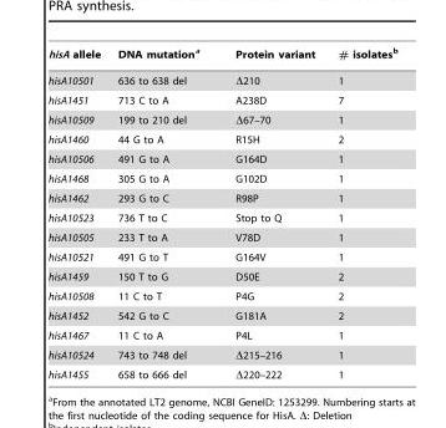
<table><thead><tr><td>hisA allele</td><td>DNA mutation<sup>a</sup></td><td>Protein variant</td><td># isolates<sup>b</sup></td></tr></thead><tbody><tr><td>hisA10501</td><td>636 to 638 del</td><td>Δ210</td><td>1</td></tr><tr><td>hisA1451</td><td>713 C to A</td><td>A238D</td><td>7</td></tr><tr><td>hisA10509</td><td>199 to 210 del</td><td>Δ67–70</td><td>1</td></tr><tr><td>hisA1460</td><td>44 G to A</td><td>R15H</td><td>2</td></tr><tr><td>hisA10506</td><td>491 G to A</td><td>G164D</td><td>1</td></tr><tr><td>hisA1468</td><td>305 G to A</td><td>G102D</td><td>1</td></tr><tr><td>hisA1462</td><td>293 G to C</td><td>R98P</td><td>1</td></tr><tr><td>hisA10523</td><td>736 T to C</td><td>Stop to Q</td><td>1</td></tr><tr><td>hisA10505</td><td>233 T to A</td><td>V78D</td><td>1</td></tr><tr><td>hisA10521</td><td>491 G to T</td><td>G164V</td><td>1</td></tr><tr><td>hisA1459</td><td>150 T to G</td><td>D50E</td><td>2</td></tr><tr><td>hisA10508</td><td>11 C to T</td><td>P4G</td><td>2</td></tr><tr><td>hisA1452</td><td>542 G to C</td><td>G181A</td><td>2</td></tr><tr><td>hisA1467</td><td>11 C to A</td><td>P4L</td><td>1</td></tr><tr><td>hisA10524</td><td>743 to 748 del</td><td>Δ215–216</td><td>1</td></tr><tr><td>hisA1455</td><td>658 to 666 del</td><td>Δ220–222</td><td>1</td></tr></tbody></table>